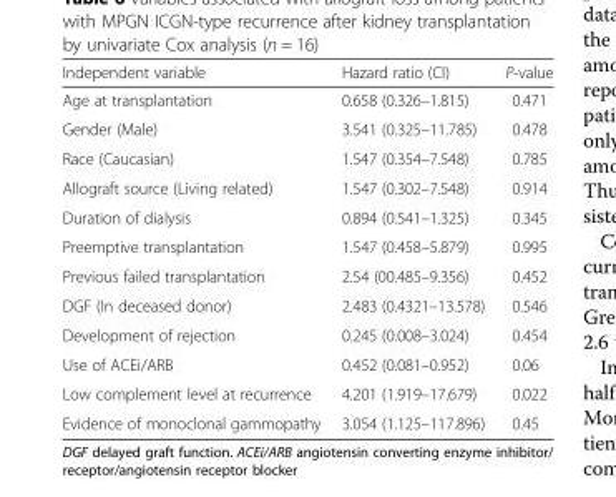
<table><thead><tr><td>Independent variable</td><td>Hazard ratio (CI)</td><td>P-value</td></tr></thead><tbody><tr><td>Age at transplantation</td><td>0.658 (0.326–1.815)</td><td>0.471</td></tr><tr><td>Gender (Male)</td><td>3.541 (0.325–11.785)</td><td>0.478</td></tr><tr><td>Race (Caucasian)</td><td>1.547 (0.354–7.548)</td><td>0.785</td></tr><tr><td>Allograft source (Living related)</td><td>1.547 (0.302–7.548)</td><td>0.914</td></tr><tr><td>Duration of dialysis</td><td>0.894 (0.541–1.325)</td><td>0.345</td></tr><tr><td>Preemptive transplantation</td><td>1.547 (0.458–5.879)</td><td>0.995</td></tr><tr><td>Previous failed transplantation</td><td>2.54 (00.485–9.356)</td><td>0.452</td></tr><tr><td>DGF (In deceased donor)</td><td>2.483 (0.4321–13.578)</td><td>0.546</td></tr><tr><td>Development of rejection</td><td>0.245 (0.008–3.024)</td><td>0.454</td></tr><tr><td>Use of ACEi/ARB</td><td>0.452 (0.081–0.952)</td><td>0.06</td></tr><tr><td>Low complement level at recurrence</td><td>4.201 (1.919–17.679)</td><td>0.022</td></tr><tr><td>Evidence of monoclonal gammopathy</td><td>3.054 (1.125–117.896)</td><td>0.45</td></tr></tbody></table>